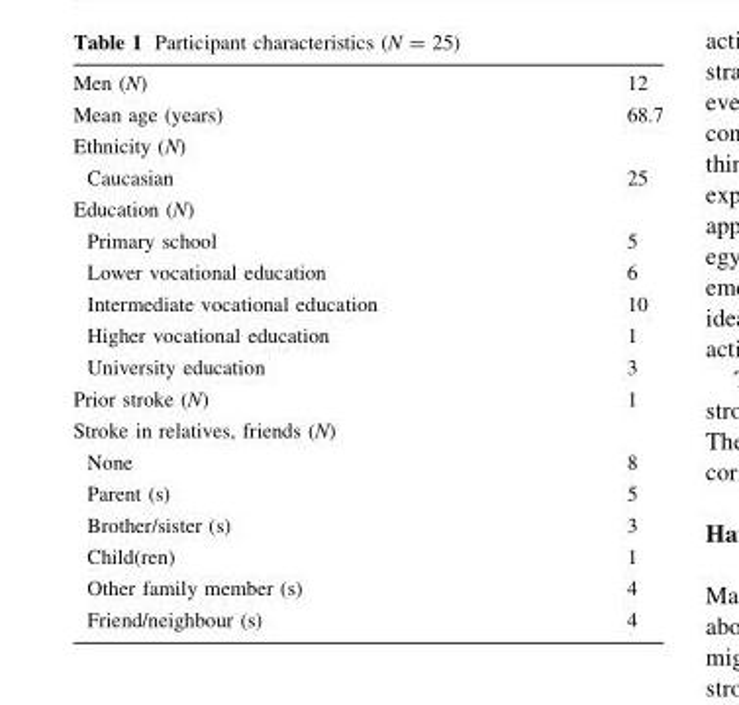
<table><tbody><tr><td>Men (N)</td><td>12</td></tr><tr><td>Mean age (years)</td><td>68.7</td></tr><tr><td colspan="2">Ethnicity (N)</td></tr><tr><td>Caucasian</td><td>25</td></tr><tr><td colspan="2">Education (N)</td></tr><tr><td>Primary school</td><td>5</td></tr><tr><td>Lower vocational education</td><td>6</td></tr><tr><td>Intermediate vocational education</td><td>10</td></tr><tr><td>Higher vocational education</td><td>1</td></tr><tr><td>University education</td><td>3</td></tr><tr><td>Prior stroke (N)</td><td>1</td></tr><tr><td colspan="2">Stroke in relatives, friends (N)</td></tr><tr><td>None</td><td>8</td></tr><tr><td>Parent (s)</td><td>5</td></tr><tr><td>Brother/sister (s)</td><td>3</td></tr><tr><td>Child(ren)</td><td>1</td></tr><tr><td>Other family member (s)</td><td>4</td></tr><tr><td>Friend/neighbour (s)</td><td>4</td></tr></tbody></table>